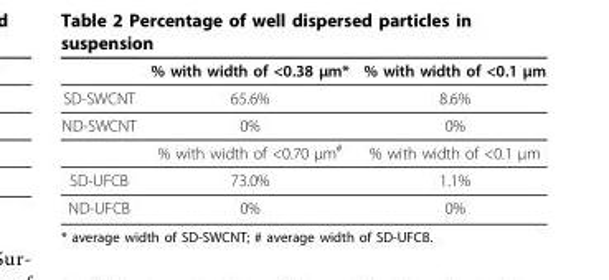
<table><thead><tr><td></td><td>% with width of &lt;0.38 μm*</td><td>% with width of &lt;0.1 μm</td></tr></thead><tbody><tr><td>SD-SWCNT</td><td>65.6%</td><td>8.6%</td></tr><tr><td rowspan="2">ND-SWCNT</td><td>0%</td><td>0%</td></tr><tr><td>% with width of &lt;0.70 μm<sup>#</sup></td><td>% with width of &lt;0.1 μm</td></tr><tr><td>SD-UFCB</td><td>73.0%</td><td>1.1%</td></tr><tr><td>ND-UFCB</td><td>0%</td><td>0%</td></tr></tbody></table>